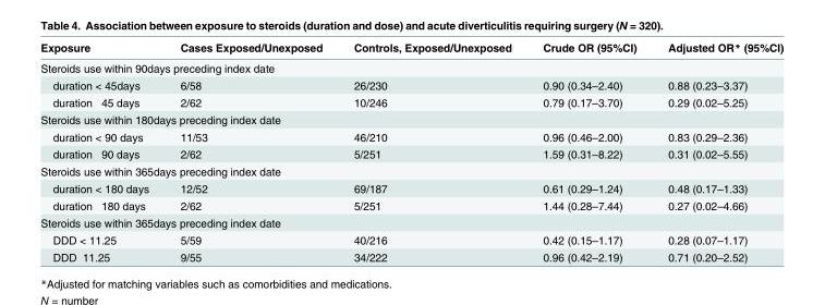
<table><thead><tr><td>Exposure</td><td>Cases Exposed/Unexposed</td><td>Controls, Exposed/Unexposed</td><td>Crude OR (95%CI)</td><td>Adjusted OR* (95%CI)</td></tr></thead><tbody><tr><td colspan="5">Steroids use within 90days preceding index date</td></tr><tr><td>duration &lt; 45days</td><td>6/58</td><td>26/230</td><td>0.90 (0.34–2.40)</td><td>0.88 (0.23–3.37)</td></tr><tr><td>duration ≧ 45 days</td><td>2/62</td><td>10/246</td><td>0.79 (0.17–3.70)</td><td>0.29 (0.02–5.25)</td></tr><tr><td colspan="5">Steroids use within 180days preceding index date</td></tr><tr><td>duration &lt; 90 days</td><td>11/53</td><td>46/210</td><td>0.96 (0.46–2.00)</td><td>0.83 (0.29–2.36)</td></tr><tr><td>duration ≧ 90 days</td><td>2/62</td><td>5/251</td><td>1.59 (0.31–8.22)</td><td>0.31 (0.02–5.55)</td></tr><tr><td colspan="5">Steroids use within 365days preceding index date</td></tr><tr><td>duration &lt; 180 days</td><td>12/52</td><td>69/187</td><td>0.61 (0.29–1.24)</td><td>0.48 (0.17–1.33)</td></tr><tr><td>duration ≧ 180 days</td><td>2/62</td><td>5/251</td><td>1.44 (0.28–7.44)</td><td>0.27 (0.02–4.66)</td></tr><tr><td colspan="5">Steroids use within 365days preceding index date</td></tr><tr><td>DDD &lt; 11.25</td><td>5/59</td><td>40/216</td><td>0.42 (0.15–1.17)</td><td>0.28 (0.07–1.17)</td></tr><tr><td>DDD≧ 11.25</td><td>9/55</td><td>34/222</td><td>0.96 (0.42–2.19)</td><td>0.71 (0.20–2.52)</td></tr></tbody></table>